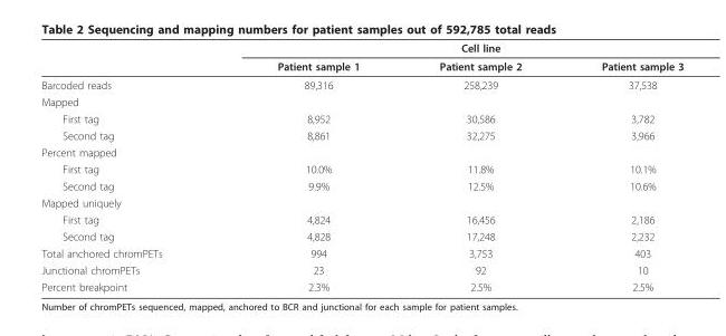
<table><thead><tr><td rowspan="2"></td><td colspan="3">Cell line</td></tr><tr><td>Patient sample 1</td><td>Patient sample 2</td><td>Patient sample 3</td></tr></thead><tbody><tr><td>Barcoded reads</td><td>89,316</td><td>258,239</td><td>37,538</td></tr><tr><td colspan="4">Mapped</td></tr><tr><td>First tag</td><td>8,952</td><td>30,586</td><td>3,782</td></tr><tr><td>Second tag</td><td>8,861</td><td>32,275</td><td>3,966</td></tr><tr><td colspan="4">Percent mapped</td></tr><tr><td>First tag</td><td>10.0%</td><td>11.8%</td><td>10.1%</td></tr><tr><td>Second tag</td><td>9.9%</td><td>12.5%</td><td>10.6%</td></tr><tr><td colspan="4">Mapped uniquely</td></tr><tr><td>First tag</td><td>4,824</td><td>16,456</td><td>2,186</td></tr><tr><td>Second tag</td><td>4,828</td><td>17,248</td><td>2,232</td></tr><tr><td>Total anchored chromPETs</td><td>994</td><td>3,753</td><td>403</td></tr><tr><td>Junctional chromPETs</td><td>23</td><td>92</td><td>10</td></tr><tr><td>Percent breakpoint</td><td>2.3%</td><td>2.5%</td><td>2.5%</td></tr></tbody></table>